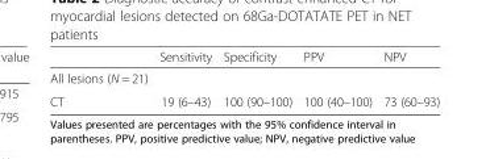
<table><thead><tr><td></td><td>Sensitivity</td><td>Specificity</td><td>PPV</td><td>NPV</td></tr></thead><tbody><tr><td colspan="5">All lesions (N = 21)</td></tr><tr><td>CT</td><td>19 (6–43)</td><td>100 (90–100)</td><td>100 (40–100)</td><td>73 (60–93)</td></tr></tbody></table>